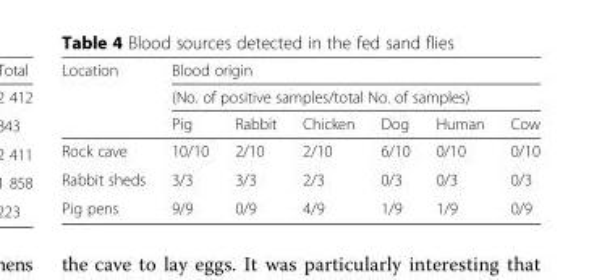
<table><thead><tr><td rowspan="3">Location</td><td rowspan="2" colspan="6">Blood origin (No. of positive samples/total No. of samples)</td></tr><tr></tr><tr><td>Pig</td><td>Rabbit</td><td>Chicken</td><td>Dog</td><td>Human</td><td>Cow</td></tr></thead><tbody><tr><td>Rock cave</td><td>10/10</td><td>2/10</td><td>2/10</td><td>6/10</td><td>0/10</td><td>0/10</td></tr><tr><td>Rabbit sheds</td><td>3/3</td><td>3/3</td><td>2/3</td><td>0/3</td><td>0/3</td><td>0/3</td></tr><tr><td>Pig pens</td><td>9/9</td><td>0/9</td><td>4/9</td><td>1/9</td><td>1/9</td><td>0/9</td></tr></tbody></table>